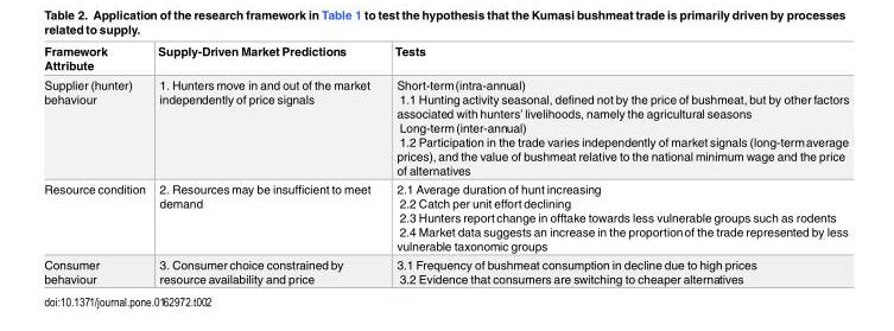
<table><thead><tr><td>Framework Attribute</td><td>Supply-Driven Market Predictions</td><td>Tests</td></tr></thead><tbody><tr><td>Supplier (hunter) behaviour</td><td>1. Hunters move in and out of the market independently of price signals</td><td>Short-term(intra-annual) 1.1 Hunting activity seasonal, defined not by the price of bushmeat, but by other factors associated with hunters’ livelihoods, namely the agricultural seasons Long-term(inter-annual) 1.2 Participation in the trade varies independently of market signals (long-termaverage prices), and the value of bushmeat relative to the national minimum wage and the price of alternatives</td></tr><tr><td>Resource condition</td><td>2. Resources may be insufficient to meet demand</td><td>2.1 Average duration of hunt increasing 2.2 Catch per unit effort declining 2.3 Hunters reportchange in offtake towards less vulnerable groups such as rodents 2.4 Market data suggests an increase in the proportionof the trade represented by less vulnerable taxonomic groups</td></tr><tr><td>Consumer behaviour</td><td>3. Consumer choice constrained by resource availability and price</td><td>3.1 Frequency of bushmeat consumption in decline due to high prices 3.2 Evidence that consumers are switching to cheaper alternatives</td></tr></tbody></table>